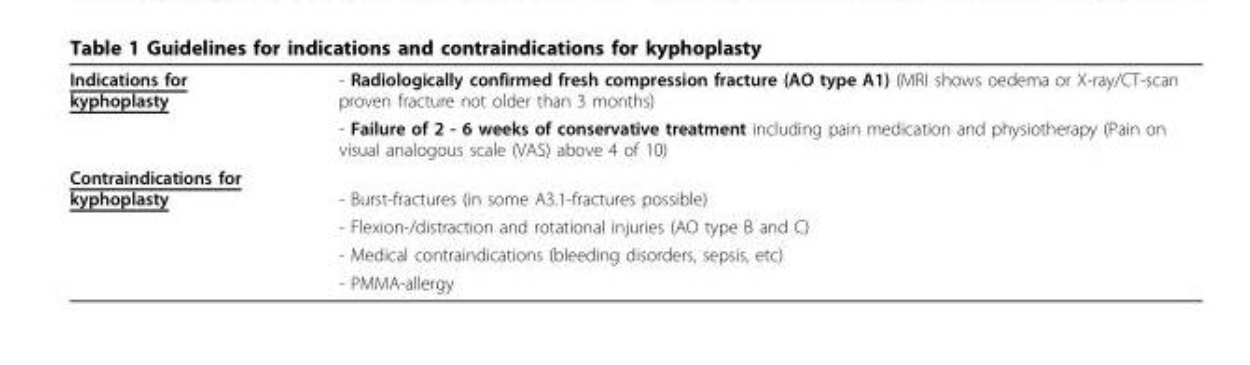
<table><tbody><tr><td rowspan="2">Indications for kyphoplasty</td><td>- Radiologically confirmed fresh compression fracture (AO type A1) (MRI shows oedema or X-ray/CT-scan proven fracture not older than 3 months)</td></tr><tr><td>- Failure of 2 - 6 weeks of conservative treatment including pain medication and physiotherapy (Pain on visual analogous scale (VAS) above 4 of 10)</td></tr><tr><td rowspan="4">Contraindications for kyphoplasty</td><td>- Burst-fractures (in some A3.1-fractures possible)</td></tr><tr><td>- Flexion-/distraction and rotational injuries (AO type B and C)</td></tr><tr><td>- Medical contraindications (bleeding disorders, sepsis, etc)</td></tr><tr><td>- PMMA-allergy</td></tr></tbody></table>